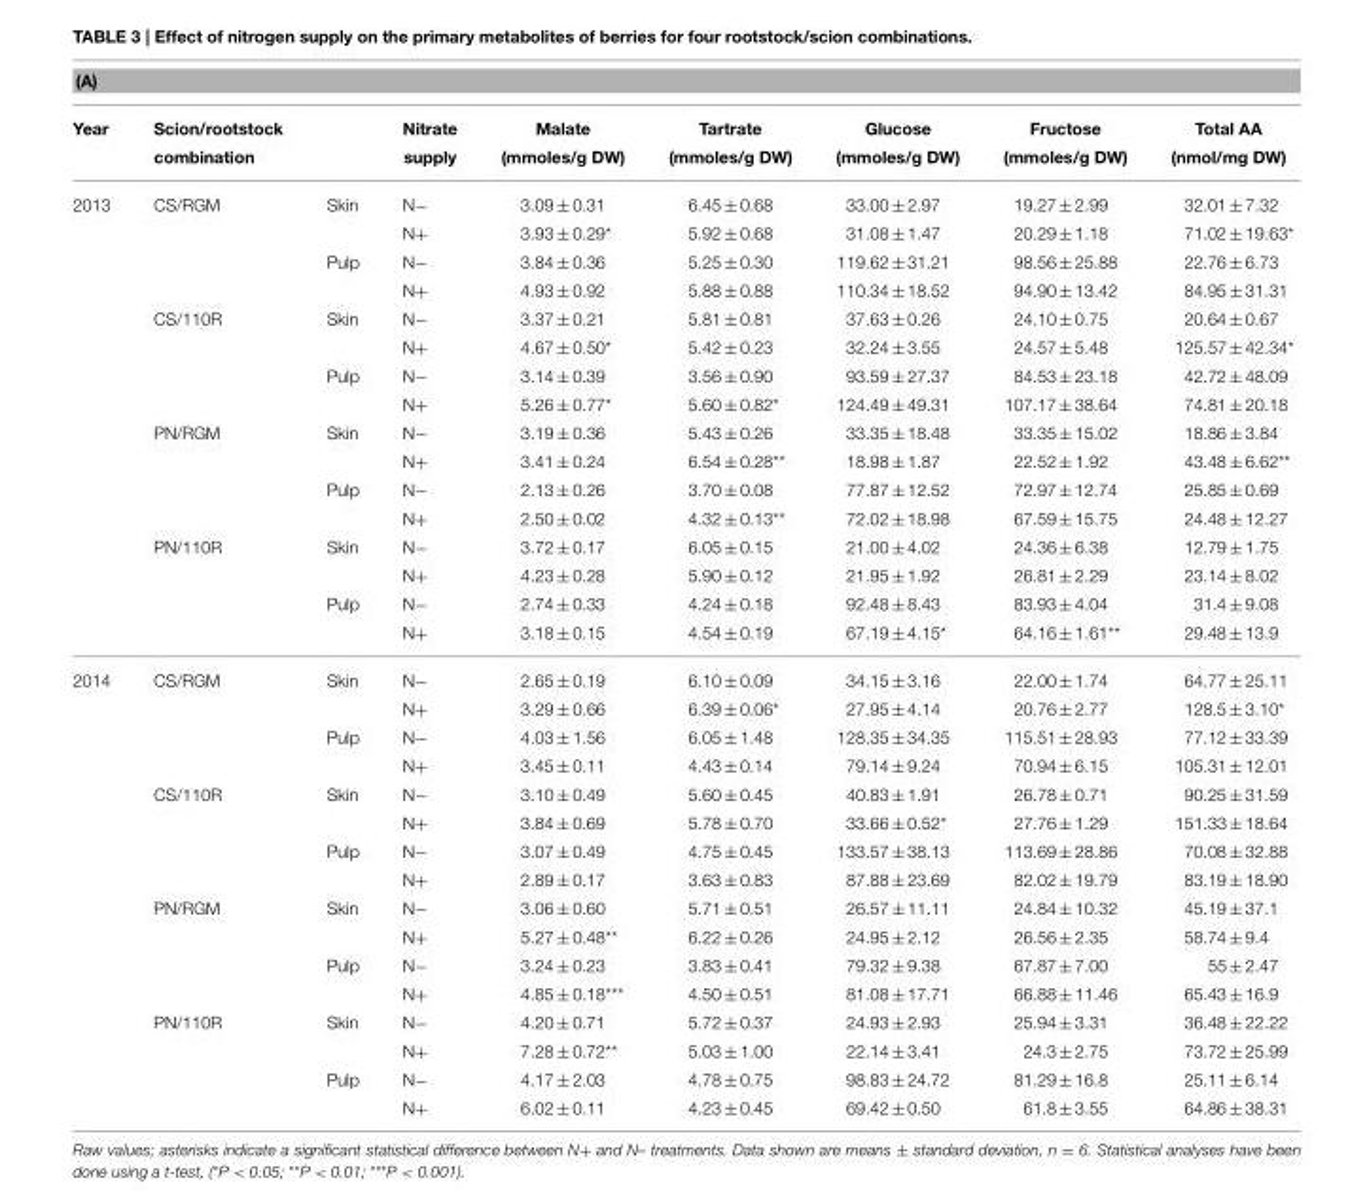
<table><thead><tr><td colspan="9">(A)</td></tr><tr><td>Year</td><td>Scion/rootstock combination</td><td></td><td>Nitrate supply</td><td>Malate (mmoles/g DW)</td><td>Tartrate (mmoles/g DW)</td><td>Glucose (mmoles/g DW)</td><td>Fructose (mmoles/g DW)</td><td>Total AA (nmol/mg DW)</td></tr></thead><tbody><tr><td rowspan="16">2013</td><td>CS/RGM</td><td>Skin</td><td>N−</td><td>3.09 ± 0.31</td><td>6.45 ± 0.68</td><td>33.00 ± 2.97</td><td>19.27 ± 2.99</td><td>32.01 ± 7.32</td></tr><tr><td></td><td></td><td>N+</td><td>3.93 ± 0.29*</td><td>5.92 ± 0.68</td><td>31.08 ± 1.47</td><td>20.29 ± 1.18</td><td>71.02 ± 19.63*</td></tr><tr><td></td><td>Pulp</td><td>N−</td><td>3.84 ± 0.36</td><td>5.25 ± 0.30</td><td>119.62 ± 31.21</td><td>98.56 ± 25.88</td><td>22.76 ± 6.73</td></tr><tr><td></td><td></td><td>N+</td><td>4.93 ± 0.92</td><td>5.88 ± 0.88</td><td>110.34 ± 18.52</td><td>94.90 ± 13.42</td><td>84.95 ± 31.31</td></tr><tr><td>CS/110R</td><td>Skin</td><td>N−</td><td>3.37 ± 0.21</td><td>5.81 ± 0.81</td><td>37.63 ± 0.26</td><td>24.10 ± 0.75</td><td>20.64 ± 0.67</td></tr><tr><td></td><td></td><td>N+</td><td>4.67 ± 0.50*</td><td>5.42 ± 0.23</td><td>32.24 ± 3.55</td><td>24.57 ± 5.48</td><td>125.57 ± 42.34*</td></tr><tr><td></td><td>Pulp</td><td>N−</td><td>3.14 ± 0.39</td><td>3.56 ± 0.90</td><td>93.59 ± 27.37</td><td>84.53 ± 23.18</td><td>42.72 ± 48.09</td></tr><tr><td></td><td></td><td>N+</td><td>5.26 ± 0.77*</td><td>5.60 ± 0.82*</td><td>124.49 ± 49.31</td><td>107.17 ± 38.64</td><td>74.81 ± 20.18</td></tr><tr><td>PN/RGM</td><td>Skin</td><td>N−</td><td>3.19 ± 0.36</td><td>5.43 ± 0.26</td><td>33.35 ± 18.48</td><td>33.35 ± 15.02</td><td>18.86 ± 3.84</td></tr><tr><td></td><td></td><td>N+</td><td>3.41 ± 0.24</td><td>6.54 ± 0.28**</td><td>18.98 ± 1.87</td><td>22.52 ± 1.92</td><td>43.48 ± 6.62**</td></tr><tr><td></td><td>Pulp</td><td>N−</td><td>2.13 ± 0.26</td><td>3.70 ± 0.08</td><td>77.87 ± 12.52</td><td>72.97 ± 12.74</td><td>25.85 ± 0.69</td></tr><tr><td></td><td></td><td>N+</td><td>2.50 ± 0.02</td><td>4.32 ± 0.13**</td><td>72.02 ± 18.98</td><td>67.59 ± 15.75</td><td>24.48 ± 12.27</td></tr><tr><td>PN/110R</td><td>Skin</td><td>N−</td><td>3.72 ± 0.17</td><td>6.05 ± 0.15</td><td>21.00 ± 4.02</td><td>24.36 ± 6.38</td><td>12.79 ± 1.75</td></tr><tr><td></td><td></td><td>N+</td><td>4.23 ± 0.28</td><td>5.90 ± 0.12</td><td>21.95 ± 1.92</td><td>26.81 ± 2.29</td><td>23.14 ± 8.02</td></tr><tr><td></td><td>Pulp</td><td>N−</td><td>2.74 ± 0.33</td><td>4.24 ± 0.18</td><td>92.48 ± 8.43</td><td>83.93 ± 4.04</td><td>31.4 ± 9.08</td></tr><tr><td></td><td></td><td>N+</td><td>3.18 ± 0.15</td><td>4.54 ± 0.19</td><td>67.19 ± 4.15*</td><td>64.16 ± 1.61**</td><td>29.48 ± 13.9</td></tr><tr><td rowspan="16">2014</td><td>CS/RGM</td><td>Skin</td><td>N−</td><td>2.65 ± 0.19</td><td>6.10 ± 0.09</td><td>34.15 ± 3.16</td><td>22.00 ± 1.74</td><td>64.77 ± 25.11</td></tr><tr><td></td><td></td><td>N+</td><td>3.29 ± 0.66</td><td>6.39 ± 0.06*</td><td>27.95 ± 4.14</td><td>20.76 ± 2.77</td><td>128.5 ± 3.10*</td></tr><tr><td></td><td>Pulp</td><td>N−</td><td>4.03 ± 1.56</td><td>6.05 ± 1.48</td><td>128.35 ± 34.35</td><td>115.51 ± 28.93</td><td>77.12 ± 33.39</td></tr><tr><td></td><td></td><td>N+</td><td>3.45 ± 0.11</td><td>4.43 ± 0.14</td><td>79.14 ± 9.24</td><td>70.94 ± 6.15</td><td>105.31 ± 12.01</td></tr><tr><td>CS/110R</td><td>Skin</td><td>N−</td><td>3.10 ± 0.49</td><td>5.60 ± 0.45</td><td>40.83 ± 1.91</td><td>26.78 ± 0.71</td><td>90.25 ± 31.59</td></tr><tr><td></td><td></td><td>N+</td><td>3.84 ± 0.69</td><td>5.78 ± 0.70</td><td>33.66 ± 0.52*</td><td>27.76 ± 1.29</td><td>151.33 ± 18.64</td></tr><tr><td></td><td>Pulp</td><td>N−</td><td>3.07 ± 0.49</td><td>4.75 ± 0.45</td><td>133.57 ± 38.13</td><td>113.69 ± 28.86</td><td>70.08 ± 32.88</td></tr><tr><td></td><td></td><td>N+</td><td>2.89 ± 0.17</td><td>3.63 ± 0.83</td><td>87.88 ± 23.69</td><td>82.02 ± 19.79</td><td>83.19 ± 18.90</td></tr><tr><td>PN/RGM</td><td>Skin</td><td>N−</td><td>3.06 ± 0.60</td><td>5.71 ± 0.51</td><td>26.57 ± 11.11</td><td>24.84 ± 10.32</td><td>45.19 ± 37.1</td></tr><tr><td></td><td></td><td>N+</td><td>5.27 ± 0.48**</td><td>6.22 ± 0.26</td><td>24.95 ± 2.12</td><td>26.56 ± 2.35</td><td>58.74 ± 9.4</td></tr><tr><td></td><td>Pulp</td><td>N−</td><td>3.24 ± 0.23</td><td>3.83 ± 0.41</td><td>79.32 ± 9.38</td><td>67.87 ± 7.00</td><td>55 ± 2.47</td></tr><tr><td></td><td></td><td>N+</td><td>4.85 ± 0.18***</td><td>4.50 ± 0.51</td><td>81.08 ± 17.71</td><td>66.88 ± 11.46</td><td>65.43 ± 16.9</td></tr><tr><td>PN/110R</td><td>Skin</td><td>N−</td><td>4.20 ± 0.71</td><td>5.72 ± 0.37</td><td>24.93 ± 2.93</td><td>25.94 ± 3.31</td><td>36.48 ± 22.22</td></tr><tr><td></td><td></td><td>N+</td><td>7.28 ± 0.72**</td><td>5.03 ± 1.00</td><td>22.14 ± 3.41</td><td>24.3 ± 2.75</td><td>73.72 ± 25.99</td></tr><tr><td></td><td>Pulp</td><td>N−</td><td>4.17 ± 2.03</td><td>4.78 ± 0.75</td><td>98.83 ± 24.72</td><td>81.29 ± 16.8</td><td>25.11 ± 6.14</td></tr><tr><td></td><td></td><td>N+</td><td>6.02 ± 0.11</td><td>4.23 ± 0.45</td><td>69.42 ± 0.50</td><td>61.8 ± 3.55</td><td>64.86 ± 38.31</td></tr></tbody></table>